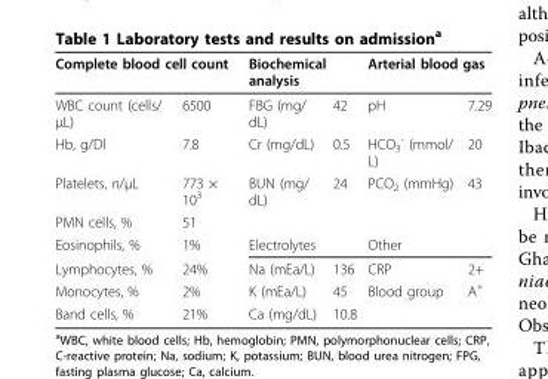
<table><thead><tr><td colspan="2">Complete blood cell count</td><td colspan="2">Biochemical analysis</td><td colspan="2">Arterial blood gas</td></tr><tr><td>WBC count (cells/ μL)</td><td>6500</td><td>FBG (mg/ dL)</td><td>42</td><td>pH</td><td>7.29</td></tr></thead><tbody><tr><td>Hb, g/Dl</td><td>7.8</td><td>Cr (mg/dL)</td><td>0.5</td><td>HCO<sub>3</sub> <sup>-</sup> (mmol/ L)</td><td>20</td></tr><tr><td>Platelets, n/μL</td><td>773 × 10<sup>3</sup></td><td>BUN (mg/ dL)</td><td>24</td><td>PCO<sub>2</sub> (mmHg)</td><td>43</td></tr><tr><td>PMN cells, %</td><td>51</td><td></td><td></td><td></td><td></td></tr><tr><td>Eosinophils, %</td><td>1%</td><td colspan="2">Electrolytes</td><td colspan="2">Other</td></tr><tr><td>Lymphocytes, %</td><td>24%</td><td>Na (mEa/L)</td><td>136</td><td>CRP</td><td>2+</td></tr><tr><td>Monocytes, %</td><td>2%</td><td>K (mEa/L)</td><td>45</td><td>Blood group</td><td>A<sup>+</sup></td></tr><tr><td>Band cells, %</td><td>21%</td><td>Ca (mg/dL)</td><td>10.8</td><td></td><td></td></tr></tbody></table>